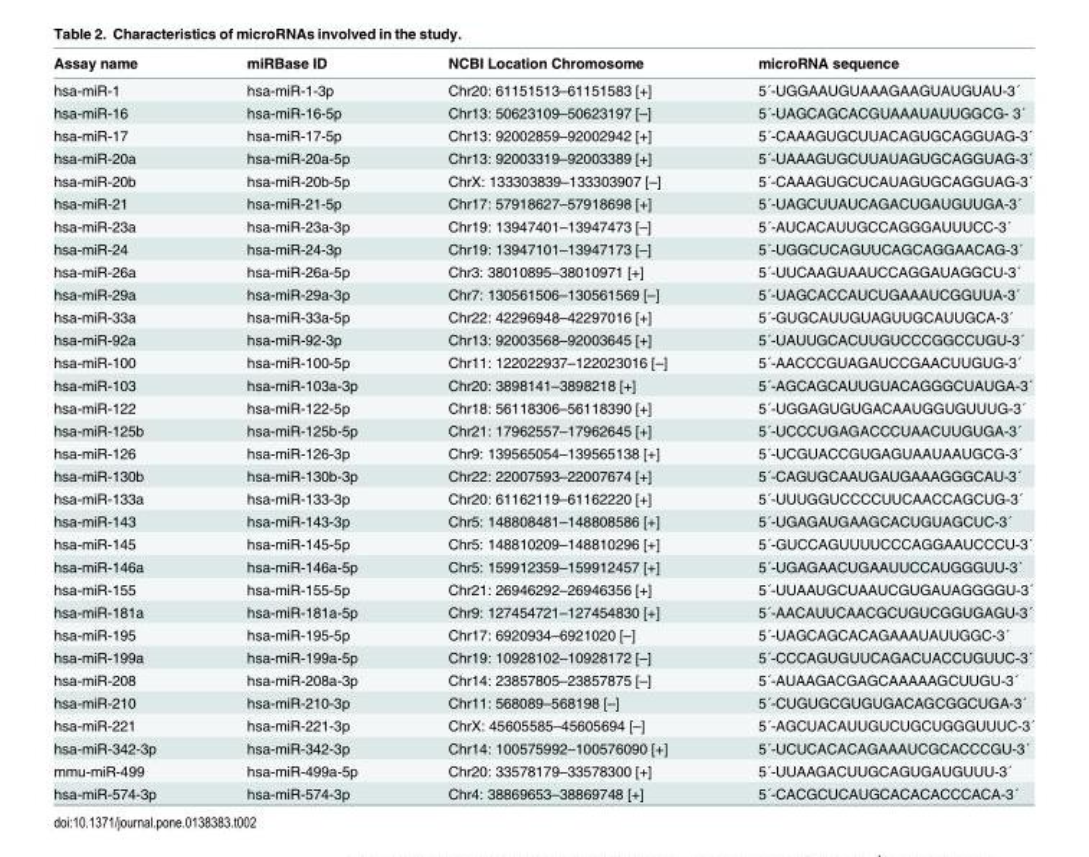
<table><thead><tr><td>Assay name</td><td>miRBase ID</td><td>NCBI Location Chromosome</td><td>microRNA sequence</td></tr></thead><tbody><tr><td>hsa-miR-1</td><td>hsa-miR-1-3p</td><td>Chr20: 61151513–61151583 [+]</td><td>5´-UGGAAUGUAAAGAAGUAUGUAU-3´</td></tr><tr><td>hsa-miR-16</td><td>hsa-miR-16-5p</td><td>Chr13: 50623109–50623197 [–]</td><td>5´-UAGCAGCACGUAAAUAUUGGCG- 3´</td></tr><tr><td>hsa-miR-17</td><td>hsa-miR-17-5p</td><td>Chr13: 92002859–92002942 [+]</td><td>5´-CAAAGUGCUUACAGUGCAGGUAG-3´</td></tr><tr><td>hsa-miR-20a</td><td>hsa-miR-20a-5p</td><td>Chr13: 92003319–92003389 [+]</td><td>5´-UAAAGUGCUUAUAGUGCAGGUAG-3´</td></tr><tr><td>hsa-miR-20b</td><td>hsa-miR-20b-5p</td><td>ChrX: 133303839–133303907 [–]</td><td>5´-CAAAGUGCUCAUAGUGCAGGUAG-3´</td></tr><tr><td>hsa-miR-21</td><td>hsa-miR-21-5p</td><td>Chr17: 57918627–57918698 [+]</td><td>5´-UAGCUUAUCAGACUGAUGUUGA-3´</td></tr><tr><td>hsa-miR-23a</td><td>hsa-miR-23a-3p</td><td>Chr19: 13947401–13947473 [–]</td><td>5´-AUCACAUUGCCAGGGAUUUCC-3´</td></tr><tr><td>hsa-miR-24</td><td>hsa-miR-24-3p</td><td>Chr19: 13947101–13947173 [–]</td><td>5´-UGGCUCAGUUCAGCAGGAACAG-3´</td></tr><tr><td>hsa-miR-26a</td><td>hsa-miR-26a-5p</td><td>Chr3: 38010895–38010971 [+]</td><td>5´-UUCAAGUAAUCCAGGAUAGGCU-3´</td></tr><tr><td>hsa-miR-29a</td><td>hsa-miR-29a-3p</td><td>Chr7: 130561506–130561569 [–]</td><td>5´-UAGCACCAUCUGAAAUCGGUUA-3´</td></tr><tr><td>hsa-miR-33a</td><td>hsa-miR-33a-5p</td><td>Chr22: 42296948–42297016 [+]</td><td>5´-GUGCAUUGUAGUUGCAUUGCA-3´</td></tr><tr><td>hsa-miR-92a</td><td>hsa-miR-92-3p</td><td>Chr13: 92003568–92003645 [+]</td><td>5´-UAUUGCACUUGUCCCGGCCUGU-3´</td></tr><tr><td>hsa-miR-100</td><td>hsa-miR-100-5p</td><td>Chr11: 122022937–122023016 [–]</td><td>5´-AACCCGUAGAUCCGAACUUGUG-3´</td></tr><tr><td>hsa-miR-103</td><td>hsa-miR-103a-3p</td><td>Chr20: 3898141–3898218 [+]</td><td>5´-AGCAGCAUUGUACAGGGCUAUGA-3´</td></tr><tr><td>hsa-miR-122</td><td>hsa-miR-122-5p</td><td>Chr18: 56118306–56118390 [+]</td><td>5´-UGGAGUGUGACAAUGGUGUUUG-3´</td></tr><tr><td>hsa-miR-125b</td><td>hsa-miR-125b-5p</td><td>Chr21: 17962557–17962645 [+]</td><td>5´-UCCCUGAGACCCUAACUUGUGA-3´</td></tr><tr><td>hsa-miR-126</td><td>hsa-miR-126-3p</td><td>Chr9: 139565054–139565138 [+]</td><td>5´-UCGUACCGUGAGUAAUAAUGCG-3´</td></tr><tr><td>hsa-miR-130b</td><td>hsa-miR-130b-3p</td><td>Chr22: 22007593–22007674 [+]</td><td>5´-CAGUGCAAUGAUGAAAGGGCAU-3´</td></tr><tr><td>hsa-miR-133a</td><td>hsa-miR-133-3p</td><td>Chr20: 61162119–61162220 [+]</td><td>5´-UUUGGUCCCCUUCAACCAGCUG-3´</td></tr><tr><td>hsa-miR-143</td><td>hsa-miR-143-3p</td><td>Chr5: 148808481–148808586 [+]</td><td>5´-UGAGAUGAAGCACUGUAGCUC-3´</td></tr><tr><td>hsa-miR-145</td><td>hsa-miR-145-5p</td><td>Chr5: 148810209–148810296 [+]</td><td>5´-GUCCAGUUUUCCCAGGAAUCCCU-3´</td></tr><tr><td>hsa-miR-146a</td><td>hsa-miR-146a-5p</td><td>Chr5: 159912359–159912457 [+]</td><td>5´-UGAGAACUGAAUUCCAUGGGUU-3´</td></tr><tr><td>hsa-miR-155</td><td>hsa-miR-155-5p</td><td>Chr21: 26946292–26946356 [+]</td><td>5´-UUAAUGCUAAUCGUGAUAGGGGU-3´</td></tr><tr><td>hsa-miR-181a</td><td>hsa-miR-181a-5p</td><td>Chr9: 127454721–127454830 [+]</td><td>5´-AACAUUCAACGCUGUCGGUGAGU-3´</td></tr><tr><td>hsa-miR-195</td><td>hsa-miR-195-5p</td><td>Chr17: 6920934–6921020 [–]</td><td>5´-UAGCAGCACAGAAAUAUUGGC-3´</td></tr><tr><td>hsa-miR-199a</td><td>hsa-miR-199a-5p</td><td>Chr19: 10928102–10928172 [–]</td><td>5´-CCCAGUGUUCAGACUACCUGUUC-3´</td></tr><tr><td>hsa-miR-208</td><td>hsa-miR-208a-3p</td><td>Chr14: 23857805–23857875 [–]</td><td>5´-AUAAGACGAGCAAAAAGCUUGU-3´</td></tr><tr><td>hsa-miR-210</td><td>hsa-miR-210-3p</td><td>Chr11: 568089–568198 [–]</td><td>5´-CUGUGCGUGUGACAGCGGCUGA-3´</td></tr><tr><td>hsa-miR-221</td><td>hsa-miR-221-3p</td><td>ChrX: 45605585–45605694 [–]</td><td>5´-AGCUACAUUGUCUGCUGGGUUUC-3´</td></tr><tr><td>hsa-miR-342-3p</td><td>hsa-miR-342-3p</td><td>Chr14: 100575992–100576090 [+]</td><td>5´-UCUCACACAGAAAUCGCACCCGU-3´</td></tr><tr><td>mmu-miR-499</td><td>hsa-miR-499a-5p</td><td>Chr20: 33578179–33578300 [+]</td><td>5´-UUAAGACUUGCAGUGAUGUUU-3´</td></tr><tr><td>hsa-miR-574-3p</td><td>hsa-miR-574-3p</td><td>Chr4: 38869653–38869748 [+]</td><td>5´-CACGCUCAUGCACACACCCACA-3´</td></tr></tbody></table>